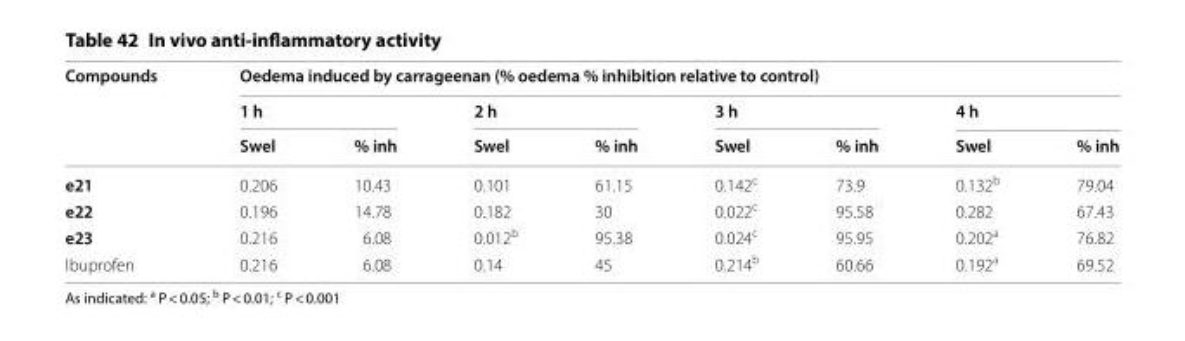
<table><thead><tr><td rowspan="3">Compounds</td><td colspan="8">Oedema induced by carrageenan (% oedema % inhibition relative to control)</td></tr><tr><td colspan="2">1 h</td><td colspan="2">2 h</td><td colspan="2">3 h</td><td colspan="2">4 h</td></tr><tr><td>Swel</td><td>% inh</td><td>Swel</td><td>% inh</td><td>Swel</td><td>% inh</td><td>Swel</td><td>% inh</td></tr></thead><tbody><tr><td>e21</td><td>0.206</td><td>10.43</td><td>0.101</td><td>61.15</td><td>0.142<sup>c</sup></td><td>73.9</td><td>0.132<sup>b</sup></td><td>79.04</td></tr><tr><td>e22</td><td>0.196</td><td>14.78</td><td>0.182</td><td>30</td><td>0.022<sup>c</sup></td><td>95.58</td><td>0.282</td><td>67.43</td></tr><tr><td>e23</td><td>0.216</td><td>6.08</td><td>0.012<sup>b</sup></td><td>95.38</td><td>0.024<sup>c</sup></td><td>95.95</td><td>0.202<sup>a</sup></td><td>76.82</td></tr><tr><td>Ibuprofen</td><td>0.216</td><td>6.08</td><td>0.14</td><td>45</td><td>0.214<sup>b</sup></td><td>60.66</td><td>0.192<sup>a</sup></td><td>69.52</td></tr></tbody></table>